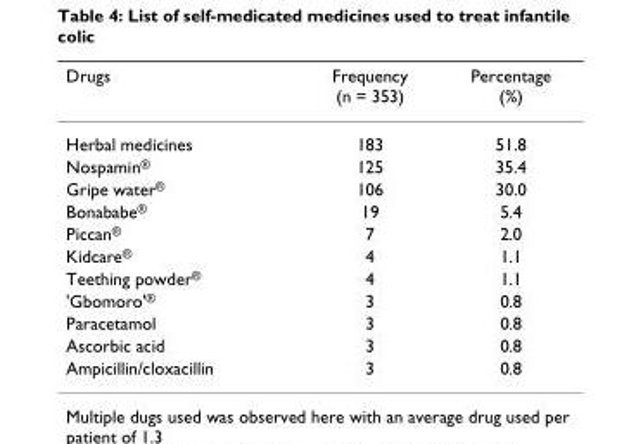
<table><thead><tr><td>Drugs</td><td>Frequency (n = 353)</td><td>Percentage (%)</td></tr></thead><tbody><tr><td>Herbal medicines</td><td>183</td><td>51.8</td></tr><tr><td>Nospamin<sup>®</sup></td><td>125</td><td>35.4</td></tr><tr><td>Gripe water<sup>®</sup></td><td>106</td><td>30.0</td></tr><tr><td>Bonababe<sup>®</sup></td><td>19</td><td>5.4</td></tr><tr><td>Piccan<sup>®</sup></td><td>7</td><td>2.0</td></tr><tr><td>Kidcare<sup>®</sup></td><td>4</td><td>1.1</td></tr><tr><td>Teething powder<sup>®</sup></td><td>4</td><td>1.1</td></tr><tr><td>&#x27;Gbomoro&#x27;<sup>®</sup></td><td>3</td><td>0.8</td></tr><tr><td>Paracetamol</td><td>3</td><td>0.8</td></tr><tr><td>Ascorbic acid</td><td>3</td><td>0.8</td></tr><tr><td>Ampicillin/cloxacillin</td><td>3</td><td>0.8</td></tr></tbody></table>